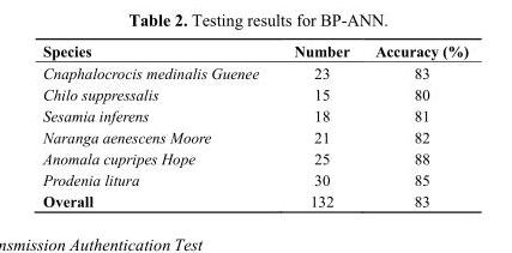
<table><thead><tr><td>Species</td><td>Number</td><td>Accuracy (%)</td></tr></thead><tbody><tr><td>Cnaphalocrocis medinalis Guenee</td><td>23</td><td>83</td></tr><tr><td>Chilo suppressalis</td><td>15</td><td>80</td></tr><tr><td>Sesamia inferens</td><td>18</td><td>81</td></tr><tr><td>Naranga aenescens Moore</td><td>21</td><td>82</td></tr><tr><td>Anomala cupripes Hope</td><td>25</td><td>88</td></tr><tr><td>Prodenia litura</td><td>30</td><td>85</td></tr><tr><td>Overall</td><td>132</td><td>83</td></tr></tbody></table>